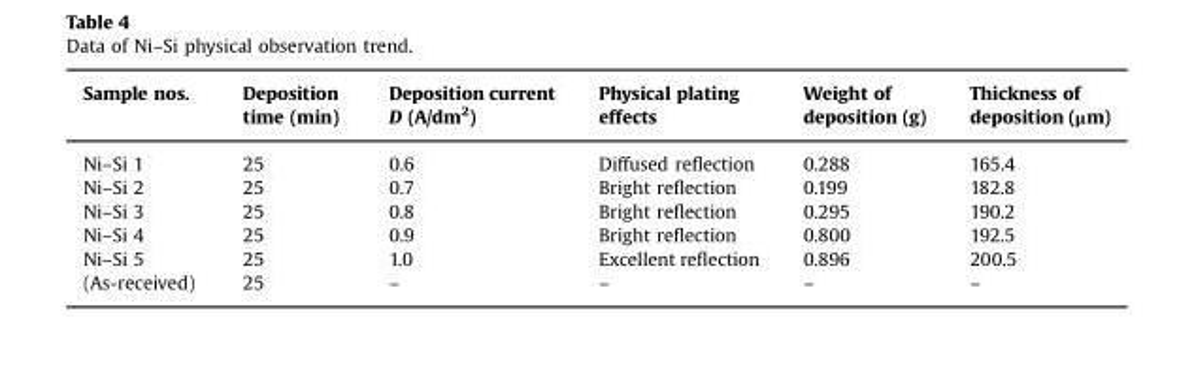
<table><thead><tr><td>Sample nos.</td><td>Deposition time (min)</td><td>Deposition current D (A/dm<sup>2</sup>)</td><td>Physical plating effects</td><td>Weight of deposition (g)</td><td>Thickness of deposition (μm)</td></tr></thead><tbody><tr><td>Ni–Si 1</td><td>25</td><td>0.6</td><td>Diffused reflection</td><td>0.288</td><td>165.4</td></tr><tr><td>Ni–Si 2</td><td>25</td><td>0.7</td><td>Bright reflection</td><td>0.199</td><td>182.8</td></tr><tr><td>Ni–Si 3</td><td>25</td><td>0.8</td><td>Bright reflection</td><td>0.295</td><td>190.2</td></tr><tr><td>Ni–Si 4</td><td>25</td><td>0.9</td><td>Bright reflection</td><td>0.800</td><td>192.5</td></tr><tr><td>Ni–Si 5</td><td>25</td><td>1.0</td><td>Excellent reflection</td><td>0.896</td><td>200.5</td></tr><tr><td>(As-received)</td><td>25</td><td>–</td><td>–</td><td>–</td><td>–</td></tr></tbody></table>